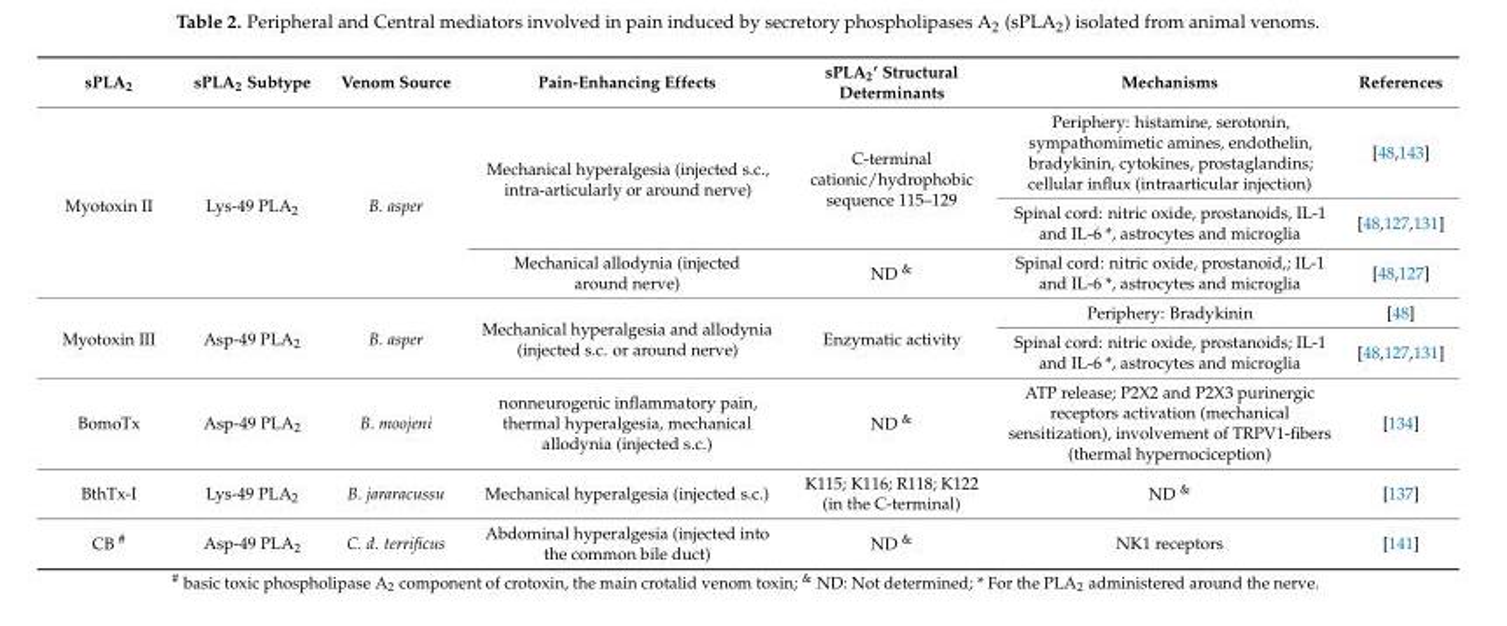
<table><thead><tr><td>sPLA<sub>2</sub></td><td>sPLA<sub>2</sub> Subtype</td><td>Venom Source</td><td>Pain-Enhancing Effects</td><td>sPLA<sub>2</sub>’ Structural Determinants</td><td>Mechanisms</td><td>References</td></tr></thead><tbody><tr><td rowspan="3">Myotoxin II</td><td rowspan="3">Lys-49 PLA<sub>2</sub></td><td rowspan="3">B. asper</td><td rowspan="2">Mechanical hyperalgesia (injected s.c., intra-articularly or around nerve)</td><td rowspan="2">C-terminal cationic/hydrophobic sequence 115–129</td><td>Periphery: histamine, serotonin, sympathomimetic amines, endothelin, bradykinin, cytokines, prostaglandins; cellular influx (intraarticular injection)</td><td>[48,143]</td></tr><tr><td>Spinal cord: nitric oxide, prostanoids, IL-1 and IL-6 *, astrocytes and microglia</td><td>[48,127,131]</td></tr><tr><td>Mechanical allodynia (injected around nerve)</td><td>ND <sup>&amp;</sup></td><td>Spinal cord: nitric oxide, prostanoid,; IL-1 and IL-6 *, astrocytes and microglia</td><td>[48,127]</td></tr><tr><td rowspan="2">Myotoxin III</td><td rowspan="2">Asp-49 PLA<sub>2</sub></td><td rowspan="2">B. asper</td><td rowspan="2">Mechanical hyperalgesia and allodynia (injected s.c. or around nerve)</td><td rowspan="2">Enzymatic activity</td><td>Periphery: Bradykinin</td><td>[48]</td></tr><tr><td>Spinal cord: nitric oxide, prostanoids; IL-1 and IL-6 *, astrocytes and microglia</td><td>[48,127,131]</td></tr><tr><td>BomoTx</td><td>Asp-49 PLA<sub>2</sub></td><td>B. moojeni</td><td>nonneurogenic inflammatory pain, thermal hyperalgesia, mechanical allodynia (injected s.c.)</td><td>ND <sup>&amp;</sup></td><td>ATP release; P2X2 and P2X3 purinergic receptors activation (mechanical sensitization), involvement of TRPV1-fibers (thermal hypernociception)</td><td>[134]</td></tr><tr><td>BthTx-I</td><td>Lys-49 PLA<sub>2</sub></td><td>B. jararacussu</td><td>Mechanical hyperalgesia (injected s.c.)</td><td>K115; K116; R118; K122 (in the C-terminal)</td><td>ND <sup>&amp;</sup></td><td>[137]</td></tr><tr><td>CB <sup>#</sup></td><td>Asp-49 PLA<sub>2</sub></td><td>C. d. terrificus</td><td>Abdominal hyperalgesia (injected into the common bile duct)</td><td>ND <sup>&amp;</sup></td><td>NK1 receptors</td><td>[141]</td></tr></tbody></table>